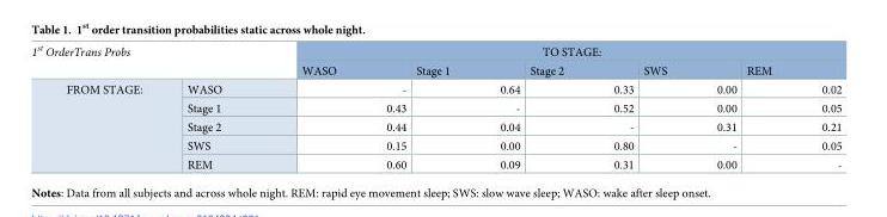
<table><tbody><tr><td rowspan="2" colspan="2">OrderTrans Probs</td><td colspan="5">TO STAGE:</td></tr><tr><td>WASO</td><td>Stage 1</td><td>Stage 2</td><td>SWS</td><td>REM</td></tr><tr><td rowspan="5">FROM STAGE:</td><td>WASO</td><td>-</td><td>0.64</td><td>0.33</td><td>0.00</td><td>0.02</td></tr><tr><td>Stage 1</td><td>0.43</td><td>-</td><td>0.52</td><td>0.00</td><td>0.05</td></tr><tr><td>Stage 2</td><td>0.44</td><td>0.04</td><td>-</td><td>0.31</td><td>0.21</td></tr><tr><td>SWS</td><td>0.15</td><td>0.00</td><td>0.80</td><td>-</td><td>0.05</td></tr><tr><td>REM</td><td>0.60</td><td>0.09</td><td>0.31</td><td>0.00</td><td>-</td></tr></tbody></table>